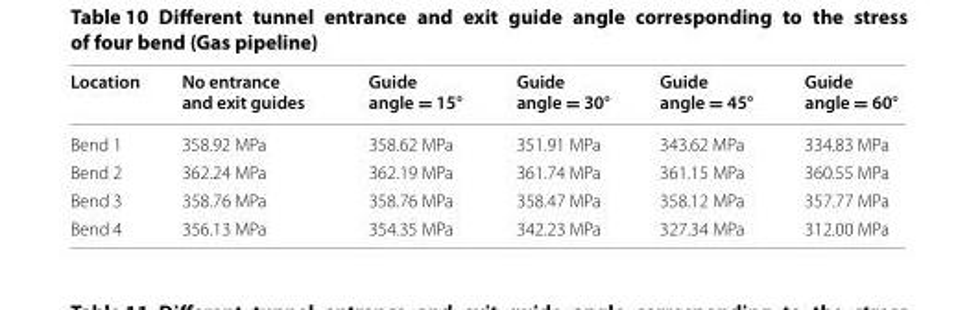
<table><thead><tr><td>Location</td><td>No entrance and exit guides</td><td>Guide angle = 15°</td><td>Guide angle = 30°</td><td>Guide angle = 45°</td><td>Guide angle = 60°</td></tr></thead><tbody><tr><td>Bend 1</td><td>358.92 MPa</td><td>358.62 MPa</td><td>351.91 MPa</td><td>343.62 MPa</td><td>334.83 MPa</td></tr><tr><td>Bend 2</td><td>362.24 MPa</td><td>362.19 MPa</td><td>361.74 MPa</td><td>361.15 MPa</td><td>360.55 MPa</td></tr><tr><td>Bend 3</td><td>358.76 MPa</td><td>358.76 MPa</td><td>358.47 MPa</td><td>358.12 MPa</td><td>357.77 MPa</td></tr><tr><td>Bend 4</td><td>356.13 MPa</td><td>354.35 MPa</td><td>342.23 MPa</td><td>327.34 MPa</td><td>312.00 MPa</td></tr></tbody></table>